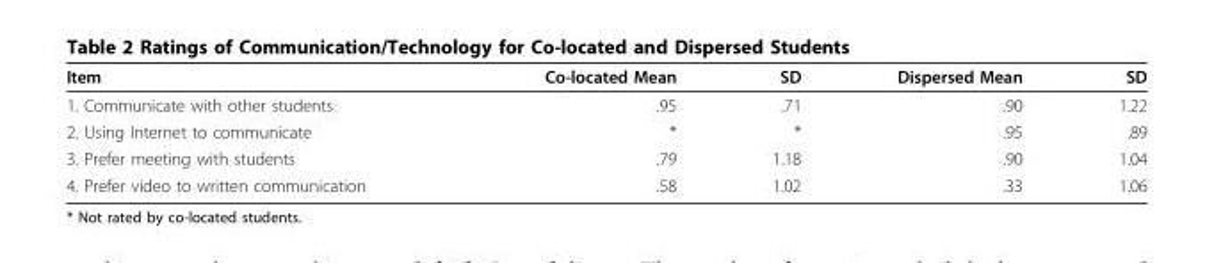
<table><thead><tr><td>Item</td><td>Co-located Mean</td><td>SD</td><td>Dispersed Mean</td><td>SD</td></tr></thead><tbody><tr><td>1. Communicate with other students</td><td>.95</td><td>.71</td><td>.90</td><td>1.22</td></tr><tr><td>2. Using Internet to communicate</td><td>*</td><td>*</td><td>.95</td><td>.89</td></tr><tr><td>3. Prefer meeting with students</td><td>.79</td><td>1.18</td><td>.90</td><td>1.04</td></tr><tr><td>4. Prefer video to written communication</td><td>.58</td><td>1.02</td><td>.33</td><td>1.06</td></tr></tbody></table>